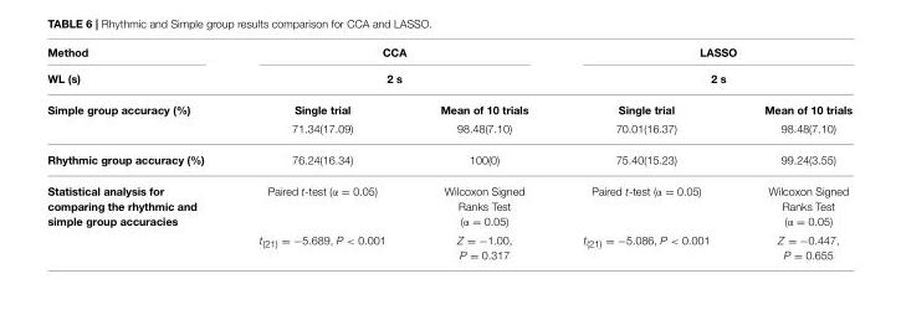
<table><thead><tr><td rowspan="3">Method WL (s) Simple group accuracy (%)</td><td rowspan="2" colspan="2">CCA 2 s</td><td rowspan="2" colspan="2">LASSO 2 s</td></tr><tr></tr><tr><td>Single trial</td><td>Mean of 10 trials</td><td>Single trial</td><td>Mean of 10 trials</td></tr></thead><tbody><tr><td></td><td>71.34(17.09)</td><td>98.48(7.10)</td><td>70.01(16.37)</td><td>98.48(7.10)</td></tr><tr><td>Rhythmic group accuracy (%)</td><td>76.24(16.34)</td><td>100(0)</td><td>75.40(15.23)</td><td>99.24(3.55)</td></tr><tr><td rowspan="2">Statistical analysis for comparing the rhythmic and simple group accuracies</td><td>Paired t-test (α = 0.05)</td><td>Wilcoxon Signed Ranks Test (α = 0.05)</td><td>Paired t-test (α = 0.05)</td><td>Wilcoxon Signed Ranks Test (α = 0.05)</td></tr><tr><td>t<sub>(21)</sub> = −5.689, P &lt; 0.001</td><td>Z = −1.00, P = 0.317</td><td>t<sub>(21)</sub> = −5.086, P &lt; 0.001</td><td>Z = −0.447, P = 0.655</td></tr></tbody></table>